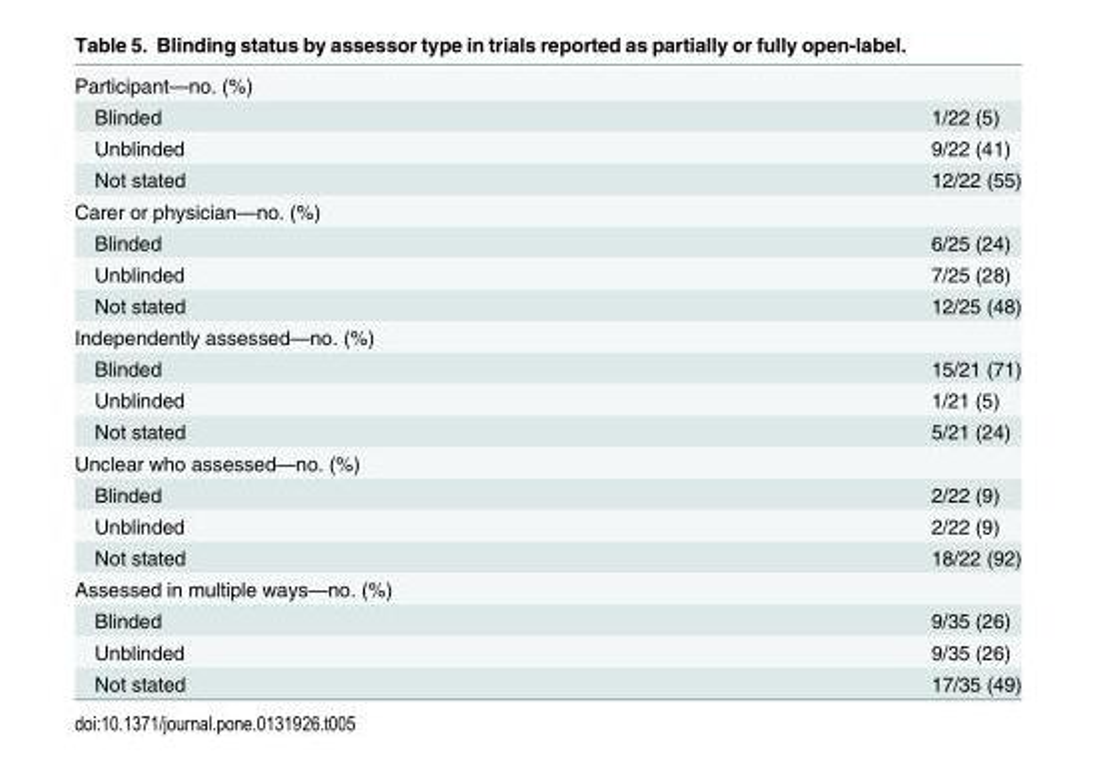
<table><tbody><tr><td colspan="2">Participant—no. (%)</td></tr><tr><td>Blinded</td><td>1/22 (5)</td></tr><tr><td>Unblinded</td><td>9/22 (41)</td></tr><tr><td>Not stated</td><td>12/22 (55)</td></tr><tr><td colspan="2">Carer or physician—no. (%)</td></tr><tr><td>Blinded</td><td>6/25 (24)</td></tr><tr><td>Unblinded</td><td>7/25 (28)</td></tr><tr><td>Not stated</td><td>12/25 (48)</td></tr><tr><td colspan="2">Independently assessed—no. (%)</td></tr><tr><td>Blinded</td><td>15/21 (71)</td></tr><tr><td>Unblinded</td><td>1/21 (5)</td></tr><tr><td>Not stated</td><td>5/21 (24)</td></tr><tr><td colspan="2">Unclear who assessed—no. (%)</td></tr><tr><td>Blinded</td><td>2/22 (9)</td></tr><tr><td>Unblinded</td><td>2/22 (9)</td></tr><tr><td>Not stated</td><td>18/22 (92)</td></tr><tr><td colspan="2">Assessed in multiple ways—no. (%)</td></tr><tr><td>Blinded</td><td>9/35 (26)</td></tr><tr><td>Unblinded</td><td>9/35 (26)</td></tr><tr><td>Not stated</td><td>17/35 (49)</td></tr></tbody></table>